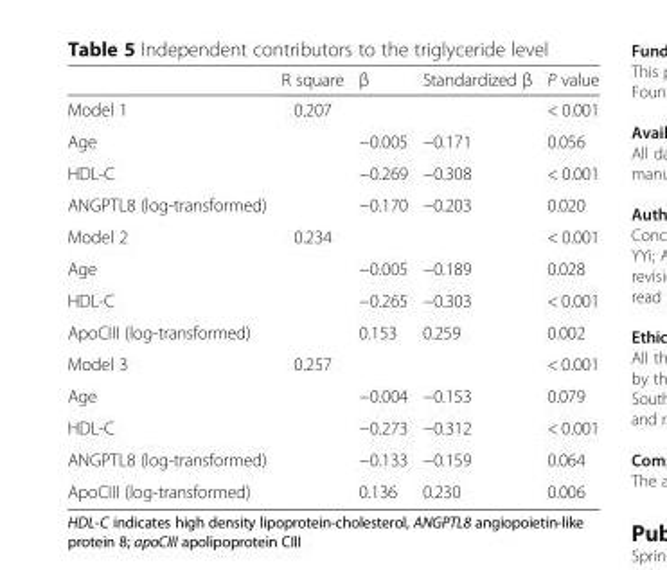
<table><thead><tr><td></td><td>R square</td><td>β</td><td>Standardized β</td><td>P value</td></tr></thead><tbody><tr><td>Model 1</td><td>0.207</td><td></td><td></td><td>&lt; 0.001</td></tr><tr><td>Age</td><td></td><td>−0.005</td><td>−0.171</td><td>0.056</td></tr><tr><td>HDL-C</td><td></td><td>−0.269</td><td>−0.308</td><td>&lt; 0.001</td></tr><tr><td>ANGPTL8 (log-transformed)</td><td></td><td>−0.170</td><td>−0.203</td><td>0.020</td></tr><tr><td>Model 2</td><td>0.234</td><td></td><td></td><td>&lt; 0.001</td></tr><tr><td>Age</td><td></td><td>−0.005</td><td>−0.189</td><td>0.028</td></tr><tr><td>HDL-C</td><td></td><td>−0.265</td><td>−0.303</td><td>&lt; 0.001</td></tr><tr><td>ApoCIII (log-transformed)</td><td></td><td>0.153</td><td>0.259</td><td>0.002</td></tr><tr><td>Model 3</td><td>0.257</td><td></td><td></td><td>&lt; 0.001</td></tr><tr><td>Age</td><td></td><td>−0.004</td><td>−0.153</td><td>0.079</td></tr><tr><td>HDL-C</td><td></td><td>−0.273</td><td>−0.312</td><td>&lt; 0.001</td></tr><tr><td>ANGPTL8 (log-transformed)</td><td></td><td>−0.133</td><td>−0.159</td><td>0.064</td></tr><tr><td>ApoCIII (log-transformed)</td><td></td><td>0.136</td><td>0.230</td><td>0.006</td></tr></tbody></table>